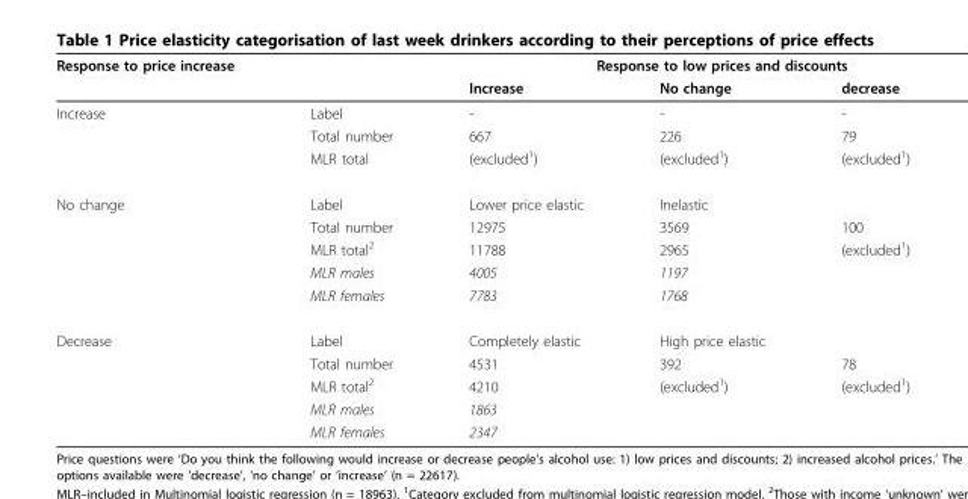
<table><thead><tr><td rowspan="2">Response to price increase</td><td rowspan="2"></td><td colspan="3">Response to low prices and discounts</td></tr><tr><td>Increase</td><td>No change</td><td>decrease</td></tr></thead><tbody><tr><td rowspan="3">Increase</td><td>Label</td><td>-</td><td>-</td><td>-</td></tr><tr><td>Total number</td><td>667</td><td>226</td><td>79</td></tr><tr><td>MLR total</td><td>(excluded<sup>1</sup>)</td><td>(excluded<sup>1</sup>)</td><td>(excluded<sup>1</sup>)</td></tr><tr><td rowspan="5">No change</td><td>Label</td><td>Lower price elastic</td><td>Inelastic</td><td></td></tr><tr><td>Total number</td><td>12975</td><td>3569</td><td>100</td></tr><tr><td>MLR total<sup>2</sup></td><td>11788</td><td>2965</td><td>(excluded<sup>1</sup>)</td></tr><tr><td>MLR males</td><td>4005</td><td>1197</td><td></td></tr><tr><td>MLR females</td><td>7783</td><td>1768</td><td></td></tr><tr><td rowspan="5">Decrease</td><td>Label</td><td>Completely elastic</td><td>High price elastic</td><td></td></tr><tr><td>Total number</td><td>4531</td><td>392</td><td>78</td></tr><tr><td>MLR total<sup>2</sup></td><td>4210</td><td>(excluded<sup>1</sup>)</td><td>(excluded<sup>1</sup>)</td></tr><tr><td>MLR males</td><td>1863</td><td></td><td></td></tr><tr><td>MLR females</td><td>2347</td><td></td><td></td></tr></tbody></table>